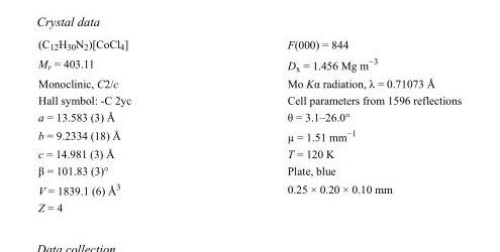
<table><tbody><tr><td>(C<sub>12</sub>H<sub>30</sub>N<sub>2</sub>)[CoCl<sub>4</sub>]</td><td>F(000) = 844</td></tr><tr><td>M<sub>r</sub> = 403.11</td><td>D<sub>x</sub> = 1.456 Mg m<sup>−3</sup></td></tr><tr><td>Monoclinic, C2/c</td><td>Mo Kα radiation, λ = 0.71073 Å</td></tr><tr><td>Hall symbol: -C 2yc</td><td>Cell parameters from 1596 reflections</td></tr><tr><td>a = 13.583 (3) Å</td><td>θ = 3.1–26.0°</td></tr><tr><td>b = 9.2334 (18) Å</td><td>µ = 1.51 mm<sup>−1</sup></td></tr><tr><td>c = 14.981 (3) Å</td><td>T = 120 K</td></tr><tr><td>β = 101.83 (3)°</td><td>Plate, blue</td></tr><tr><td>V = 1839.1 (6) Å<sup>3</sup></td><td>0.25 × 0.20 × 0.10 mm</td></tr><tr><td>Z = 4</td><td></td></tr></tbody></table>